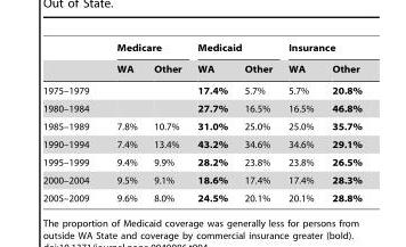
<table><thead><tr><td rowspan="2"></td><td colspan="2">Medicare</td><td colspan="2">Medicaid</td><td colspan="2">Insurance</td></tr><tr><td>WA</td><td>Other</td><td>WA</td><td>Other</td><td>WA</td><td>Other</td></tr></thead><tbody><tr><td>1975–1979</td><td></td><td></td><td>17.4%</td><td>5.7%</td><td>5.7%</td><td>20.8%</td></tr><tr><td>1980–1984</td><td></td><td></td><td>27.7%</td><td>16.5%</td><td>16.5%</td><td>46.8%</td></tr><tr><td>1985–1989</td><td>7.8%</td><td>10.7%</td><td>31.0%</td><td>25.0%</td><td>25.0%</td><td>35.7%</td></tr><tr><td>1990–1994</td><td>7.4%</td><td>13.4%</td><td>43.2%</td><td>34.6%</td><td>34.6%</td><td>29.1%</td></tr><tr><td>1995–1999</td><td>9.4%</td><td>9.9%</td><td>28.2%</td><td>23.8%</td><td>23.8%</td><td>26.5%</td></tr><tr><td>2000–2004</td><td>9.5%</td><td>9.1%</td><td>18.6%</td><td>17.4%</td><td>17.4%</td><td>28.3%</td></tr><tr><td>2005–2009</td><td>9.6%</td><td>8.0%</td><td>24.5%</td><td>20.1%</td><td>20.1%</td><td>28.8%</td></tr></tbody></table>